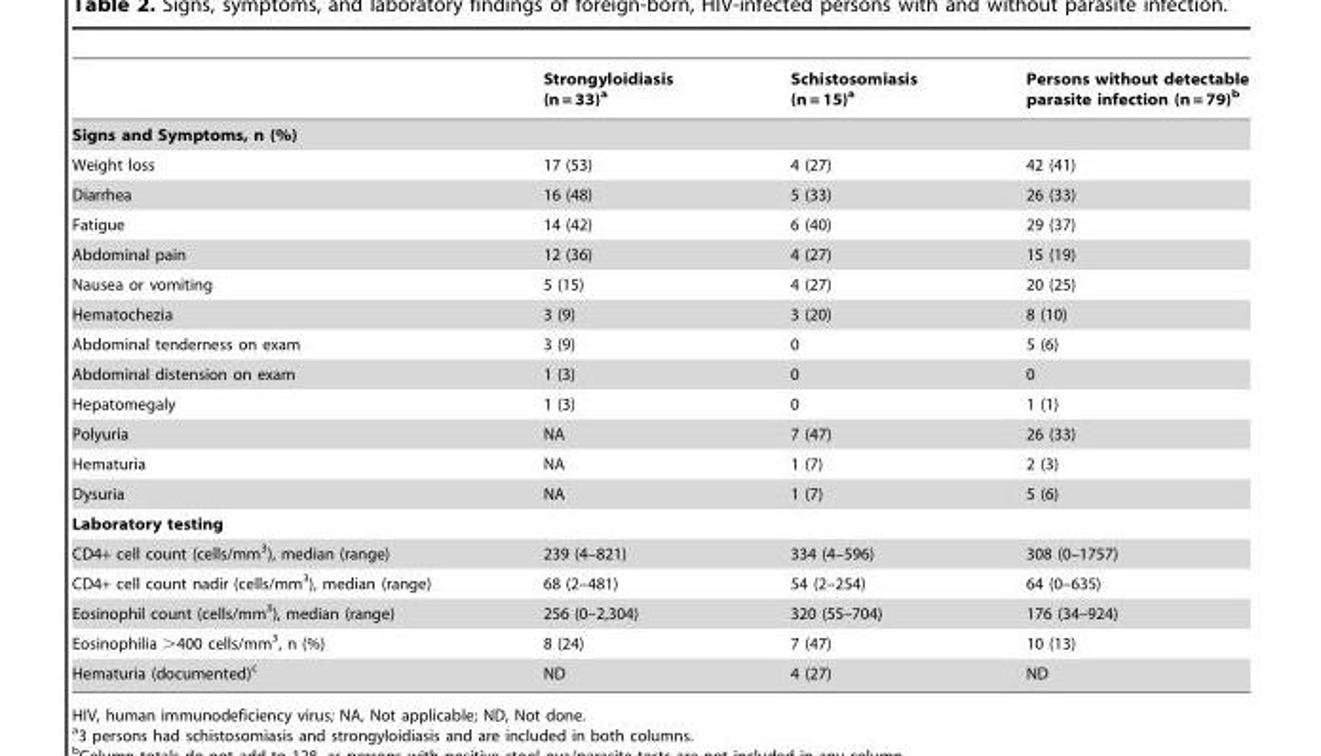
<table><thead><tr><td></td><td>Strongyloidiasis (n = 33)<sup>a</sup></td><td>Schistosomiasis (n = 15)<sup>a</sup></td><td>Persons without detectable parasite infection (n = 79)<sup>b</sup></td></tr></thead><tbody><tr><td colspan="4">Signs and Symptoms, n (%)</td></tr><tr><td>Weight loss</td><td>17 (53)</td><td>4 (27)</td><td>42 (41)</td></tr><tr><td>Diarrhea</td><td>16 (48)</td><td>5 (33)</td><td>26 (33)</td></tr><tr><td>Fatigue</td><td>14 (42)</td><td>6 (40)</td><td>29 (37)</td></tr><tr><td>Abdominal pain</td><td>12 (36)</td><td>4 (27)</td><td>15 (19)</td></tr><tr><td>Nausea or vomiting</td><td>5 (15)</td><td>4 (27)</td><td>20 (25)</td></tr><tr><td>Hematochezia</td><td>3 (9)</td><td>3 (20)</td><td>8 (10)</td></tr><tr><td>Abdominal tenderness on exam</td><td>3 (9)</td><td>0</td><td>5 (6)</td></tr><tr><td>Abdominal distension on exam</td><td>1 (3)</td><td>0</td><td>0</td></tr><tr><td>Hepatomegaly</td><td>1 (3)</td><td>0</td><td>1 (1)</td></tr><tr><td>Polyuria</td><td>NA</td><td>7 (47)</td><td>26 (33)</td></tr><tr><td>Hematuria</td><td>NA</td><td>1 (7)</td><td>2 (3)</td></tr><tr><td>Dysuria</td><td>NA</td><td>1 (7)</td><td>5 (6)</td></tr><tr><td colspan="4">Laboratory testing</td></tr><tr><td>CD4+ cell count (cells/mm<sup>3</sup>), median (range)</td><td>239 (4–821)</td><td>334 (4–596)</td><td>308 (0–1757)</td></tr><tr><td>CD4+ cell count nadir (cells/mm<sup>3</sup>), median (range)</td><td>68 (2–481)</td><td>54 (2–254)</td><td>64 (0–635)</td></tr><tr><td>Eosinophil count (cells/mm<sup>3</sup>), median (range)</td><td>256 (0–2,304)</td><td>320 (55–704)</td><td>176 (34–924)</td></tr><tr><td>Eosinophilia &gt;400 cells/mm<sup>3</sup>, n (%)</td><td>8 (24)</td><td>7 (47)</td><td>10 (13)</td></tr><tr><td>Hematuria (documented)<sup>c</sup></td><td>ND</td><td>4 (27)</td><td>ND</td></tr></tbody></table>